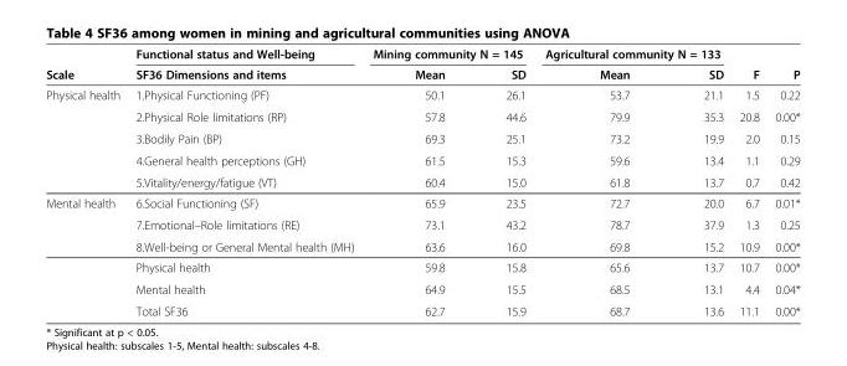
<table><thead><tr><td rowspan="2">Scale</td><td rowspan="2">Functional status and Well-being SF36 Dimensions and items</td><td colspan="2">Mining community N = 145</td><td colspan="2">Agricultural community N = 133</td><td rowspan="2">F</td><td rowspan="2">P</td></tr><tr><td>Mean</td><td>SD</td><td>Mean</td><td>SD</td></tr></thead><tbody><tr><td rowspan="5">Physical health</td><td>1.Physical Functioning (PF)</td><td>50.1</td><td>26.1</td><td>53.7</td><td>21.1</td><td>1.5</td><td>0.22</td></tr><tr><td>2.Physical Role limitations (RP)</td><td>57.8</td><td>44.6</td><td>79.9</td><td>35.3</td><td>20.8</td><td>0.00*</td></tr><tr><td>3.Bodily Pain (BP)</td><td>69.3</td><td>25.1</td><td>73.2</td><td>19.9</td><td>2.0</td><td>0.15</td></tr><tr><td>4.General health perceptions (GH)</td><td>61.5</td><td>15.3</td><td>59.6</td><td>13.4</td><td>1.1</td><td>0.29</td></tr><tr><td>5.Vitality/energy/fatigue (VT)</td><td>60.4</td><td>15.0</td><td>61.8</td><td>13.7</td><td>0.7</td><td>0.42</td></tr><tr><td rowspan="6">Mental health</td><td>6.Social Functioning (SF)</td><td>65.9</td><td>23.5</td><td>72.7</td><td>20.0</td><td>6.7</td><td>0.01*</td></tr><tr><td>7.Emotional–Role limitations (RE)</td><td>73.1</td><td>43.2</td><td>78.7</td><td>37.9</td><td>1.3</td><td>0.25</td></tr><tr><td>8.Well-being or General Mental health (MH)</td><td>63.6</td><td>16.0</td><td>69.8</td><td>15.2</td><td>10.9</td><td>0.00*</td></tr><tr><td>Physical health</td><td>59.8</td><td>15.8</td><td>65.6</td><td>13.7</td><td>10.7</td><td>0.00*</td></tr><tr><td>Mental health</td><td>64.9</td><td>15.5</td><td>68.5</td><td>13.1</td><td>4.4</td><td>0.04*</td></tr><tr><td>Total SF36</td><td>62.7</td><td>15.9</td><td>68.7</td><td>13.6</td><td>11.1</td><td>0.00*</td></tr></tbody></table>